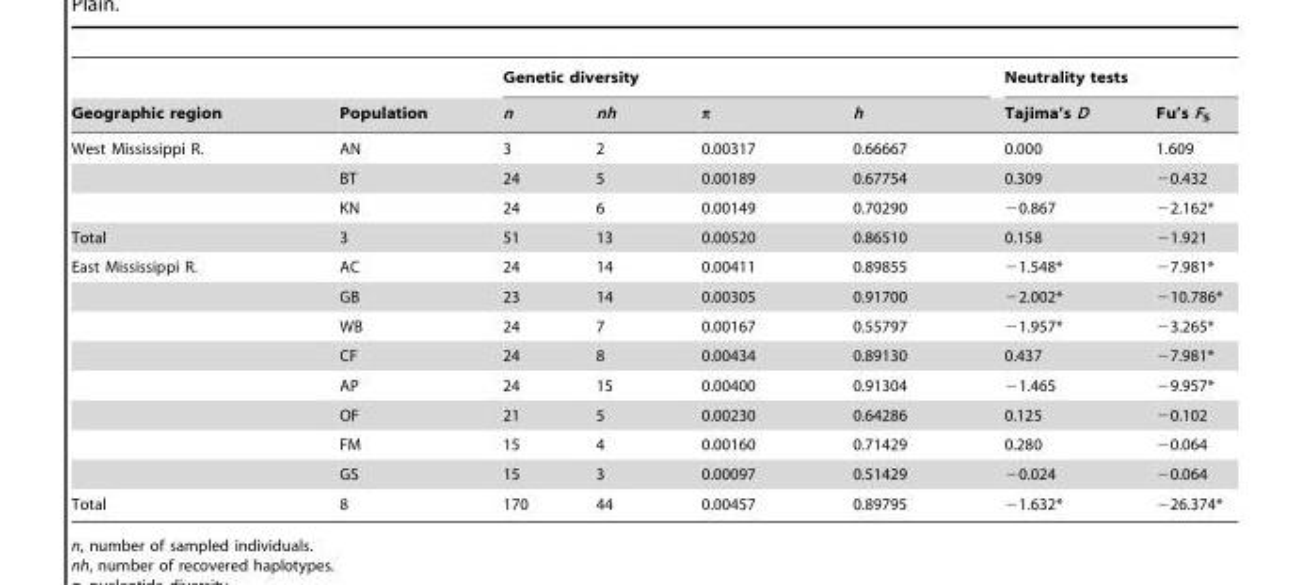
<table><thead><tr><td rowspan="2">Geographic region</td><td rowspan="2">Population</td><td colspan="4">Genetic diversity</td><td colspan="2">Neutrality tests</td></tr><tr><td>n</td><td>nh</td><td>π</td><td>h</td><td>Tajima’s D</td><td>Fu’s F<sub>S</sub></td></tr></thead><tbody><tr><td rowspan="3">West Mississippi R.</td><td>AN</td><td>3</td><td>2</td><td>0.00317</td><td>0.66667</td><td>0.000</td><td>1.609</td></tr><tr><td>BT</td><td>24</td><td>5</td><td>0.00189</td><td>0.67754</td><td>0.309</td><td>−0.432</td></tr><tr><td>KN</td><td>24</td><td>6</td><td>0.00149</td><td>0.70290</td><td>−0.867</td><td>−2.162*</td></tr><tr><td>Total</td><td>3</td><td>51</td><td>13</td><td>0.00520</td><td>0.86510</td><td>0.158</td><td>−1.921</td></tr><tr><td rowspan="8">East Mississippi R.</td><td>AC</td><td>24</td><td>14</td><td>0.00411</td><td>0.89855</td><td>−1.548*</td><td>−7.981*</td></tr><tr><td>GB</td><td>23</td><td>14</td><td>0.00305</td><td>0.91700</td><td>−2.002*</td><td>−10.786*</td></tr><tr><td>WB</td><td>24</td><td>7</td><td>0.00167</td><td>0.55797</td><td>−1.957*</td><td>−3.265*</td></tr><tr><td>CF</td><td>24</td><td>8</td><td>0.00434</td><td>0.89130</td><td>0.437</td><td>−7.981*</td></tr><tr><td>AP</td><td>24</td><td>15</td><td>0.00400</td><td>0.91304</td><td>−1.465</td><td>−9.957*</td></tr><tr><td>OF</td><td>21</td><td>5</td><td>0.00230</td><td>0.64286</td><td>0.125</td><td>−0.102</td></tr><tr><td>FM</td><td>15</td><td>4</td><td>0.00160</td><td>0.71429</td><td>0.280</td><td>−0.064</td></tr><tr><td>GS</td><td>15</td><td>3</td><td>0.00097</td><td>0.51429</td><td>−0.024</td><td>−0.064</td></tr><tr><td>Total</td><td>8</td><td>170</td><td>44</td><td>0.00457</td><td>0.89795</td><td>−1.632*</td><td>−26.374*</td></tr></tbody></table>